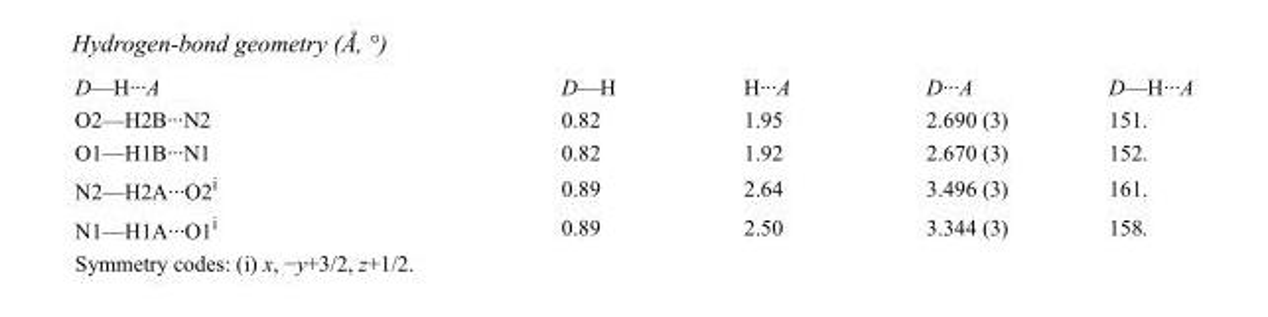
<table><tbody><tr><td>D—H···A</td><td>D—H</td><td>H···A</td><td>D···A</td><td>D—H···A</td></tr><tr><td>O2—H2B···N2</td><td>0.82</td><td>1.95</td><td>2.690 (3)</td><td>151.</td></tr><tr><td>O1—H1B···N1</td><td>0.82</td><td>1.92</td><td>2.670 (3)</td><td>152.</td></tr><tr><td>N2—H2A···O2<sup>i</sup></td><td>0.89</td><td>2.64</td><td>3.496 (3)</td><td>161.</td></tr><tr><td>N1—H1A···O1<sup>i</sup></td><td>0.89</td><td>2.50</td><td>3.344 (3)</td><td>158.</td></tr></tbody></table>